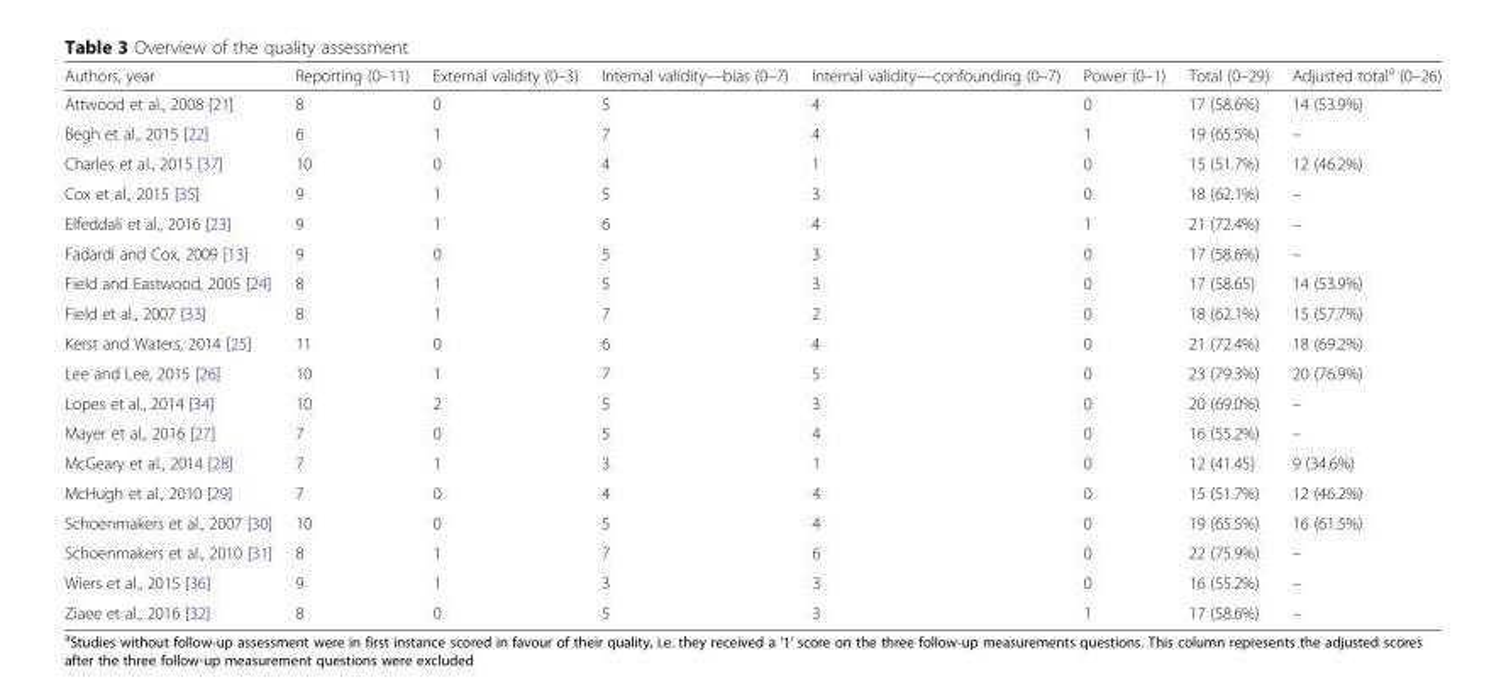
<table><thead><tr><td>Authors, year</td><td>Reporting (0–11)</td><td>External validity (0–3)</td><td>Internal validity—bias (0–7)</td><td>Internal validity—confounding (0–7)</td><td>Power (0–1)</td><td>Total (0–29)</td><td>Adjusted total<sup>a</sup> (0–26)</td></tr></thead><tbody><tr><td>Attwood et al., 2008 [21]</td><td>8</td><td>0</td><td>5</td><td>4</td><td>0</td><td>17 (58.6%)</td><td>14 (53.9%)</td></tr><tr><td>Begh et al., 2015 [22]</td><td>6</td><td>1</td><td>7</td><td>4</td><td>1</td><td>19 (65.5%)</td><td>–</td></tr><tr><td>Charles et al., 2015 [37]</td><td>10</td><td>0</td><td>4</td><td>1</td><td>0</td><td>15 (51.7%)</td><td>12 (46.2%)</td></tr><tr><td>Cox et al., 2015 [35]</td><td>9</td><td>1</td><td>5</td><td>3</td><td>0</td><td>18 (62.1%)</td><td>–</td></tr><tr><td>Elfeddali et al., 2016 [23]</td><td>9</td><td>1</td><td>6</td><td>4</td><td>1</td><td>21 (72.4%)</td><td>–</td></tr><tr><td>Fadardi and Cox, 2009 [13]</td><td>9</td><td>0</td><td>5</td><td>3</td><td>0</td><td>17 (58.6%)</td><td>–</td></tr><tr><td>Field and Eastwood, 2005 [24]</td><td>8</td><td>1</td><td>5</td><td>3</td><td>0</td><td>17 (58.65)</td><td>14 (53.9%)</td></tr><tr><td>Field et al., 2007 [33]</td><td>8</td><td>1</td><td>7</td><td>2</td><td>0</td><td>18 (62.1%)</td><td>15 (57.7%)</td></tr><tr><td>Kerst and Waters, 2014 [25]</td><td>11</td><td>0</td><td>6</td><td>4</td><td>0</td><td>21 (72.4%)</td><td>18 (69.2%)</td></tr><tr><td>Lee and Lee, 2015 [26]</td><td>10</td><td>1</td><td>7</td><td>5</td><td>0</td><td>23 (79.3%)</td><td>20 (76.9%)</td></tr><tr><td>Lopes et al., 2014 [34]</td><td>10</td><td>2</td><td>5</td><td>3</td><td>0</td><td>20 (69.0%)</td><td>–</td></tr><tr><td>Mayer et al., 2016 [27]</td><td>7</td><td>0</td><td>5</td><td>4</td><td>0</td><td>16 (55.2%)</td><td>–</td></tr><tr><td>McGeary et al., 2014 [28]</td><td>7</td><td>1</td><td>3</td><td>1</td><td>0</td><td>12 (41.45)</td><td>9 (34.6%)</td></tr><tr><td>McHugh et al., 2010 [29]</td><td>7</td><td>0</td><td>4</td><td>4</td><td>0</td><td>15 (51.7%)</td><td>12 (46.2%)</td></tr><tr><td>Schoenmakers et al., 2007 [30]</td><td>10</td><td>0</td><td>5</td><td>4</td><td>0</td><td>19 (65.5%)</td><td>16 (61.5%)</td></tr><tr><td>Schoenmakers et al., 2010 [31]</td><td>8</td><td>1</td><td>7</td><td>6</td><td>0</td><td>22 (75.9%)</td><td>–</td></tr><tr><td>Wiers et al., 2015 [36]</td><td>9</td><td>1</td><td>3</td><td>3</td><td>0</td><td>16 (55.2%)</td><td>–</td></tr><tr><td>Ziaee et al., 2016 [32]</td><td>8</td><td>0</td><td>5</td><td>3</td><td>1</td><td>17 (58.6%)</td><td>–</td></tr></tbody></table>